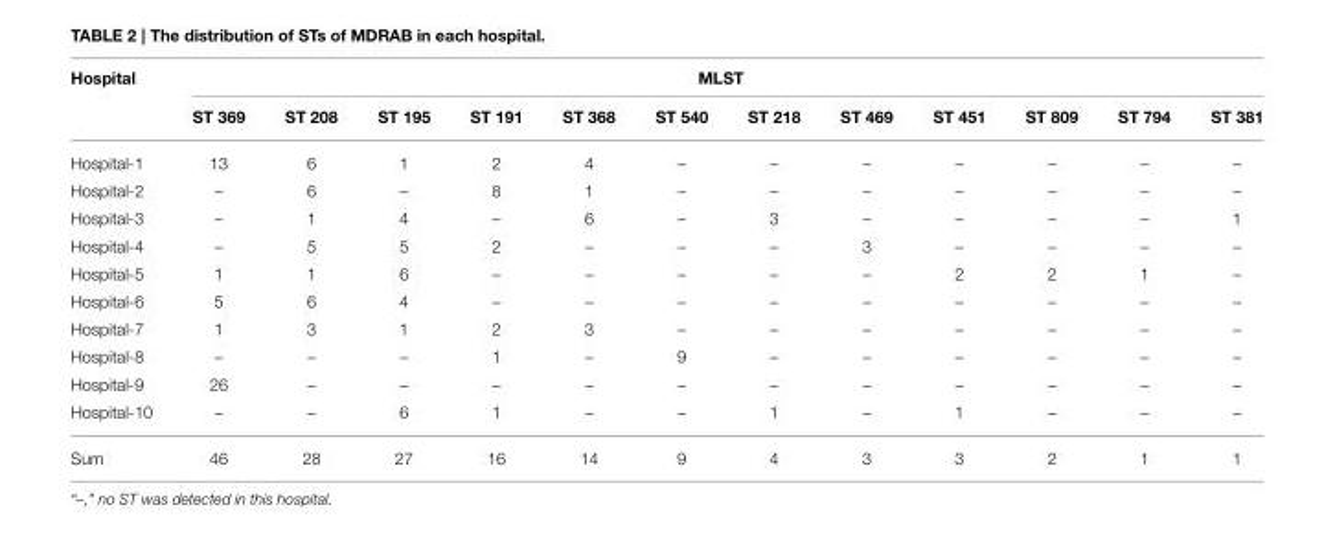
<table><thead><tr><td rowspan="2">Hospital</td><td colspan="12">MLST</td></tr><tr><td>ST 369</td><td>ST 208</td><td>ST 195</td><td>ST 191</td><td>ST 368</td><td>ST 540</td><td>ST 218</td><td>ST 469</td><td>ST 451</td><td>ST 809</td><td>ST 794</td><td>ST 381</td></tr></thead><tbody><tr><td>Hospital-1</td><td>13</td><td>6</td><td>1</td><td>2</td><td>4</td><td>–</td><td>–</td><td>–</td><td>–</td><td>–</td><td>–</td><td>–</td></tr><tr><td>Hospital-2</td><td>–</td><td>6</td><td>–</td><td>8</td><td>1</td><td>–</td><td>–</td><td>–</td><td>–</td><td>–</td><td>–</td><td>–</td></tr><tr><td>Hospital-3</td><td>–</td><td>1</td><td>4</td><td>–</td><td>6</td><td>–</td><td>3</td><td>–</td><td>–</td><td>–</td><td>–</td><td>1</td></tr><tr><td>Hospital-4</td><td>–</td><td>5</td><td>5</td><td>2</td><td>–</td><td>–</td><td>–</td><td>3</td><td>–</td><td>–</td><td>–</td><td>–</td></tr><tr><td>Hospital-5</td><td>1</td><td>1</td><td>6</td><td>–</td><td>–</td><td>–</td><td>–</td><td>–</td><td>2</td><td>2</td><td>1</td><td>–</td></tr><tr><td>Hospital-6</td><td>5</td><td>6</td><td>4</td><td>–</td><td>–</td><td>–</td><td>–</td><td>–</td><td>–</td><td>–</td><td>–</td><td>–</td></tr><tr><td>Hospital-7</td><td>1</td><td>3</td><td>1</td><td>2</td><td>3</td><td>–</td><td>–</td><td>–</td><td>–</td><td>–</td><td>–</td><td>–</td></tr><tr><td>Hospital-8</td><td>–</td><td>–</td><td>–</td><td>1</td><td>–</td><td>9</td><td>–</td><td>–</td><td>–</td><td>–</td><td>–</td><td>–</td></tr><tr><td>Hospital-9</td><td>26</td><td>–</td><td>–</td><td>–</td><td>–</td><td>–</td><td>–</td><td>–</td><td>–</td><td>–</td><td>–</td><td>–</td></tr><tr><td>Hospital-10</td><td>–</td><td>–</td><td>6</td><td>1</td><td>–</td><td>–</td><td>1</td><td>–</td><td>1</td><td>–</td><td>–</td><td>–</td></tr><tr><td>Sum</td><td>46</td><td>28</td><td>27</td><td>16</td><td>14</td><td>9</td><td>4</td><td>3</td><td>3</td><td>2</td><td>1</td><td>1</td></tr></tbody></table>